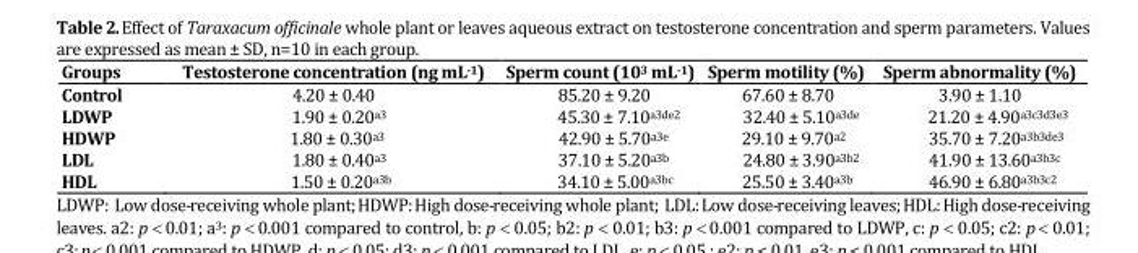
<table><thead><tr><td>Groups</td><td>Testosterone concentration (ng mL<sup>-1</sup>)</td><td>Sperm count (10<sup>3</sup> mL<sup>-1</sup>)</td><td>Sperm motility (%)</td><td>Sperm abnormality (%)</td></tr></thead><tbody><tr><td>Control</td><td>4.20 ± 0.40</td><td>85.20 ± 9.20</td><td>67.60 ± 8.70</td><td>3.90 ± 1.10</td></tr><tr><td>LDWP</td><td>1.90 ± 0.20a3</td><td>45.30 ± 7.10a3<sup>d</sup>e2</td><td>32.40 ± 5.10a3<sup>de</sup></td><td>21.20 ± 4.90a3c3d3e3</td></tr><tr><td>HDWP</td><td>1.80 ± 0.30a3</td><td>42.90 ± 5.70a3<sup>e</sup></td><td>29.10 ± 9.70a2</td><td>35.70 ± 7.20a3b3<sup>d</sup>e3</td></tr><tr><td>LDL</td><td>1.80 ± 0.40a3</td><td>37.10 ± 5.20a3<sup>b</sup></td><td>24.80 ± 3.90a3b2</td><td>41.90 ± 13.60a3b3<sup>c</sup></td></tr><tr><td>HDL</td><td>1.50 ± 0.20a3<sup>b</sup></td><td>34.10 ± 5.00a3<sup>bc</sup></td><td>25.50 ± 3.40a3<sup>b</sup></td><td>46.90 ± 6.80a3b3c2</td></tr></tbody></table>